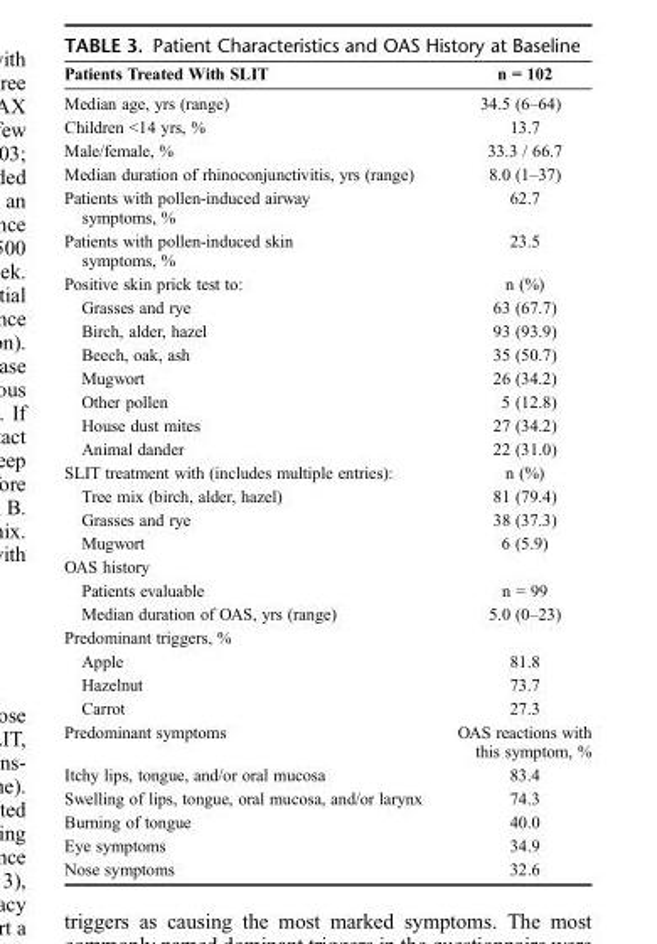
<table><thead><tr><td>Patients Treated With SLIT</td><td>n = 102</td></tr></thead><tbody><tr><td>Median age, yrs (range)</td><td>34.5 (6Y64)</td></tr><tr><td>Children &lt;14 yrs, %</td><td>13.7</td></tr><tr><td>Male/female, %</td><td>33.3 / 66.7</td></tr><tr><td>Median duration of rhinoconjunctivitis, yrs (range)</td><td>8.0 (1Y37)</td></tr><tr><td>Patients with pollen-induced airway symptoms, %</td><td>62.7</td></tr><tr><td>Patients with pollen-induced skin symptoms, %</td><td>23.5</td></tr><tr><td>Positive skin prick test to:</td><td>n (%)</td></tr><tr><td>Grasses and rye</td><td>63 (67.7)</td></tr><tr><td>Birch, alder, hazel</td><td>93 (93.9)</td></tr><tr><td>Beech, oak, ash</td><td>35 (50.7)</td></tr><tr><td>Mugwort</td><td>26 (34.2)</td></tr><tr><td>Other pollen</td><td>5 (12.8)</td></tr><tr><td>House dust mites</td><td>27 (34.2)</td></tr><tr><td>Animal dander</td><td>22 (31.0)</td></tr><tr><td>SLIT treatment with (includes multiple entries):</td><td>n (%)</td></tr><tr><td>Tree mix (birch, alder, hazel)</td><td>81 (79.4)</td></tr><tr><td>Grasses and rye</td><td>38 (37.3)</td></tr><tr><td>Mugwort</td><td>6 (5.9)</td></tr><tr><td colspan="2">OAS history</td></tr><tr><td>Patients evaluable</td><td>n = 99</td></tr><tr><td>Median duration of OAS, yrs (range)</td><td>5.0 (0Y23)</td></tr><tr><td colspan="2">Predominant triggers, %</td></tr><tr><td>Apple</td><td>81.8</td></tr><tr><td>Hazelnut</td><td>73.7</td></tr><tr><td>Carrot</td><td>27.3</td></tr><tr><td>Predominant symptoms</td><td>OAS reactions with this symptom, %</td></tr><tr><td>Itchy lips, tongue, and/or oral mucosa</td><td>83.4</td></tr><tr><td>Swelling of lips, tongue, oral mucosa, and/or larynx</td><td>74.3</td></tr><tr><td>Burning of tongue</td><td>40.0</td></tr><tr><td>Eye symptoms</td><td>34.9</td></tr><tr><td>Nose symptoms</td><td>32.6</td></tr></tbody></table>